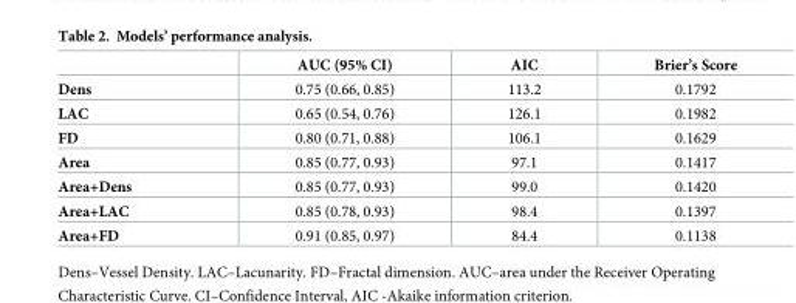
<table><thead><tr><td></td><td>AUC (95% CI)</td><td>AIC</td><td>Brier’s Score</td></tr></thead><tbody><tr><td>Dens</td><td>0.75 (0.66, 0.85)</td><td>113.2</td><td>0.1792</td></tr><tr><td>LAC</td><td>0.65 (0.54, 0.76)</td><td>126.1</td><td>0.1982</td></tr><tr><td>FD</td><td>0.80 (0.71, 0.88)</td><td>106.1</td><td>0.1629</td></tr><tr><td>Area</td><td>0.85 (0.77, 0.93)</td><td>97.1</td><td>0.1417</td></tr><tr><td>Area+Dens</td><td>0.85 (0.77, 0.93)</td><td>99.0</td><td>0.1420</td></tr><tr><td>Area+LAC</td><td>0.85 (0.78, 0.93)</td><td>98.4</td><td>0.1397</td></tr><tr><td>Area+FD</td><td>0.91 (0.85, 0.97)</td><td>84.4</td><td>0.1138</td></tr></tbody></table>